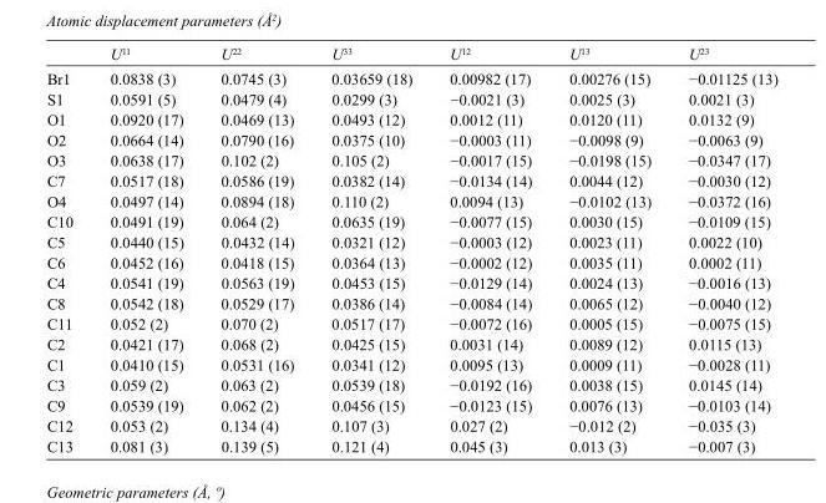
<table><thead><tr><td></td><td>U<sup>11</sup></td><td>U<sup>22</sup></td><td>U<sup>33</sup></td><td>U<sup>12</sup></td><td>U<sup>13</sup></td><td>U<sup>23</sup></td></tr></thead><tbody><tr><td>Br1</td><td>0.0838 (3)</td><td>0.0745 (3)</td><td>0.03659 (18)</td><td>0.00982 (17)</td><td>0.00276 (15)</td><td>−0.01125 (13)</td></tr><tr><td>S1</td><td>0.0591 (5)</td><td>0.0479 (4)</td><td>0.0299 (3)</td><td>−0.0021 (3)</td><td>0.0025 (3)</td><td>0.0021 (3)</td></tr><tr><td>O1</td><td>0.0920 (17)</td><td>0.0469 (13)</td><td>0.0493 (12)</td><td>0.0012 (11)</td><td>0.0120 (11)</td><td>0.0132 (9)</td></tr><tr><td>O2</td><td>0.0664 (14)</td><td>0.0790 (16)</td><td>0.0375 (10)</td><td>−0.0003 (11)</td><td>−0.0098 (9)</td><td>−0.0063 (9)</td></tr><tr><td>O3</td><td>0.0638 (17)</td><td>0.102 (2)</td><td>0.105 (2)</td><td>−0.0017 (15)</td><td>−0.0198 (15)</td><td>−0.0347 (17)</td></tr><tr><td>C7</td><td>0.0517 (18)</td><td>0.0586 (19)</td><td>0.0382 (14)</td><td>−0.0134 (14)</td><td>0.0044 (12)</td><td>−0.0030 (12)</td></tr><tr><td>O4</td><td>0.0497 (14)</td><td>0.0894 (18)</td><td>0.110 (2)</td><td>0.0094 (13)</td><td>−0.0102 (13)</td><td>−0.0372 (16)</td></tr><tr><td>C10</td><td>0.0491 (19)</td><td>0.064 (2)</td><td>0.0635 (19)</td><td>−0.0077 (15)</td><td>0.0030 (15)</td><td>−0.0109 (15)</td></tr><tr><td>C5</td><td>0.0440 (15)</td><td>0.0432 (14)</td><td>0.0321 (12)</td><td>−0.0003 (12)</td><td>0.0023 (11)</td><td>0.0022 (10)</td></tr><tr><td>C6</td><td>0.0452 (16)</td><td>0.0418 (15)</td><td>0.0364 (13)</td><td>−0.0002 (12)</td><td>0.0035 (11)</td><td>0.0002 (11)</td></tr><tr><td>C4</td><td>0.0541 (19)</td><td>0.0563 (19)</td><td>0.0453 (15)</td><td>−0.0129 (14)</td><td>0.0024 (13)</td><td>−0.0016 (13)</td></tr><tr><td>C8</td><td>0.0542 (18)</td><td>0.0529 (17)</td><td>0.0386 (14)</td><td>−0.0084 (14)</td><td>0.0065 (12)</td><td>−0.0040 (12)</td></tr><tr><td>C11</td><td>0.052 (2)</td><td>0.070 (2)</td><td>0.0517 (17)</td><td>−0.0072 (16)</td><td>0.0005 (15)</td><td>−0.0075 (15)</td></tr><tr><td>C2</td><td>0.0421 (17)</td><td>0.068 (2)</td><td>0.0425 (15)</td><td>0.0031 (14)</td><td>0.0089 (12)</td><td>0.0115 (13)</td></tr><tr><td>C1</td><td>0.0410 (15)</td><td>0.0531 (16)</td><td>0.0341 (12)</td><td>0.0095 (13)</td><td>0.0009 (11)</td><td>−0.0028 (11)</td></tr><tr><td>C3</td><td>0.059 (2)</td><td>0.063 (2)</td><td>0.0539 (18)</td><td>−0.0192 (16)</td><td>0.0038 (15)</td><td>0.0145 (14)</td></tr><tr><td>C9</td><td>0.0539 (19)</td><td>0.062 (2)</td><td>0.0456 (15)</td><td>−0.0123 (15)</td><td>0.0076 (13)</td><td>−0.0103 (14)</td></tr><tr><td>C12</td><td>0.053 (2)</td><td>0.134 (4)</td><td>0.107 (3)</td><td>0.027 (2)</td><td>−0.012 (2)</td><td>−0.035 (3)</td></tr><tr><td>C13</td><td>0.081 (3)</td><td>0.139 (5)</td><td>0.121 (4)</td><td>0.045 (3)</td><td>0.013 (3)</td><td>−0.007 (3)</td></tr></tbody></table>